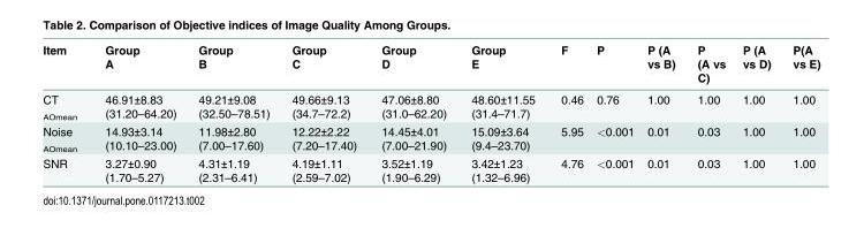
<table><thead><tr><td>Item</td><td>Group A</td><td>Group B</td><td>Group C</td><td>Group D</td><td>Group E</td><td>F</td><td>P</td><td>P (A vs B)</td><td>P (A vs C)</td><td>P (A vs D)</td><td>P(A vs E)</td></tr></thead><tbody><tr><td>CT <sub>AOmean</sub></td><td>46.91±8.83 (31.20–64.20)</td><td>49.21±9.08 (32.50–78.51)</td><td>49.66±9.13 (34.7–72.2)</td><td>47.06±8.80 (31.0–62.20)</td><td>48.60±11.55 (31.4–71.7)</td><td>0.46</td><td>0.76</td><td>1.00</td><td>1.00</td><td>1.00</td><td>1.00</td></tr><tr><td>Noise <sub>AOmean</sub></td><td>14.93±3.14 (10.10–23.00)</td><td>11.98±2.80 (7.00–17.60)</td><td>12.22±2.22 (7.20–17.40)</td><td>14.45±4.01 (7.00–21.90)</td><td>15.09±3.64 (9.4–23.70)</td><td>5.95</td><td>&lt;0.001</td><td>0.01</td><td>0.03</td><td>1.00</td><td>1.00</td></tr><tr><td>SNR</td><td>3.27±0.90 (1.70–5.27)</td><td>4.31±1.19 (2.31–6.41)</td><td>4.19±1.11 (2.59–7.02)</td><td>3.52±1.19 (1.90–6.29)</td><td>3.42±1.23 (1.32–6.96)</td><td>4.76</td><td>&lt;0.001</td><td>0.01</td><td>0.03</td><td>1.00</td><td>1.00</td></tr></tbody></table>